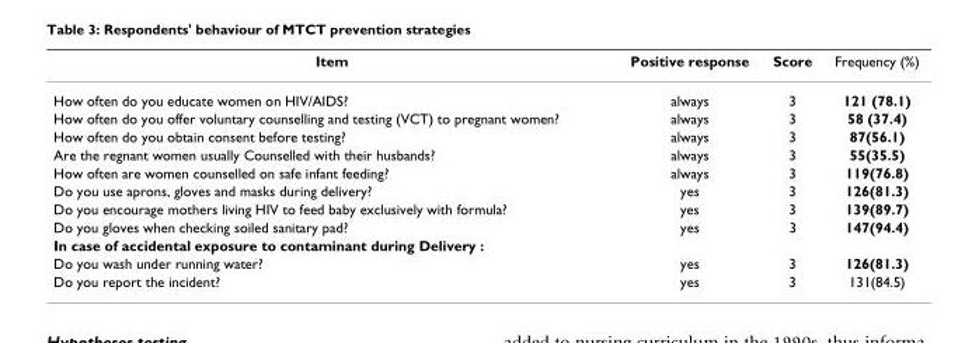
<table><thead><tr><td>Item</td><td>Positive response</td><td>Score</td><td>Frequency (%)</td></tr></thead><tbody><tr><td>How often do you educate women on HIV/AIDS?</td><td>always</td><td>3</td><td>121 (78.1)</td></tr><tr><td>How often do you offer voluntary counselling and testing (VCT) to pregnant women?</td><td>always</td><td>3</td><td>58 (37.4)</td></tr><tr><td>How often do you obtain consent before testing?</td><td>always</td><td>3</td><td>87(56.1)</td></tr><tr><td>Are the regnant women usually Counselled with their husbands?</td><td>always</td><td>3</td><td>55(35.5)</td></tr><tr><td>How often are women counselled on safe infant feeding?</td><td>always</td><td>3</td><td>119(76.8)</td></tr><tr><td>Do you use aprons, gloves and masks during delivery?</td><td>yes</td><td>3</td><td>126(81.3)</td></tr><tr><td>Do you encourage mothers living HIV to feed baby exclusively with formula?</td><td>yes</td><td>3</td><td>139(89.7)</td></tr><tr><td>Do you gloves when checking soiled sanitary pad?</td><td>yes</td><td>3</td><td>147(94.4)</td></tr><tr><td colspan="4">In case of accidental exposure to contaminant during Delivery :</td></tr><tr><td>Do you wash under running water?</td><td>yes</td><td>3</td><td>126(81.3)</td></tr><tr><td>Do you report the incident?</td><td>yes</td><td>3</td><td>131(84.5)</td></tr></tbody></table>